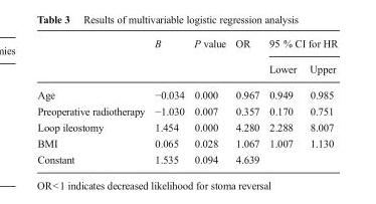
<table><thead><tr><td rowspan="2"></td><td rowspan="2">B</td><td rowspan="2">P value</td><td rowspan="2">OR</td><td colspan="2">95 % CI for HR</td></tr><tr><td>Lower</td><td>Upper</td></tr></thead><tbody><tr><td>Age</td><td>−0.034</td><td>0.000</td><td>0.967</td><td>0.949</td><td>0.985</td></tr><tr><td>Preoperative radiotherapy</td><td>−1.030</td><td>0.007</td><td>0.357</td><td>0.170</td><td>0.751</td></tr><tr><td>Loop ileostomy</td><td>1.454</td><td>0.000</td><td>4.280</td><td>2.288</td><td>8.007</td></tr><tr><td>BMI</td><td>0.065</td><td>0.028</td><td>1.067</td><td>1.007</td><td>1.130</td></tr><tr><td>Constant</td><td>1.535</td><td>0.094</td><td>4.639</td><td></td><td></td></tr></tbody></table>